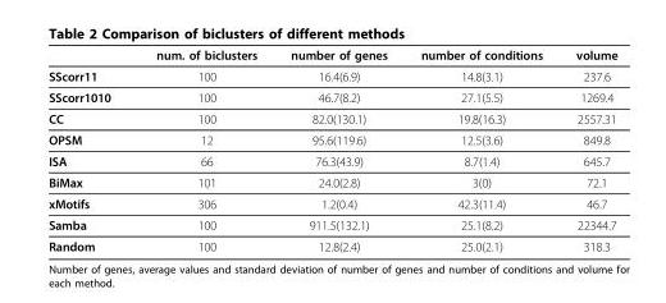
<table><thead><tr><td></td><td>num. of biclusters</td><td>number of genes</td><td>number of conditions</td><td>volume</td></tr></thead><tbody><tr><td>SScorr11</td><td>100</td><td>16.4(6.9)</td><td>14.8(3.1)</td><td>237.6</td></tr><tr><td>SScorr1010</td><td>100</td><td>46.7(8.2)</td><td>27.1(5.5)</td><td>1269.4</td></tr><tr><td>CC</td><td>100</td><td>82.0(130.1)</td><td>19.8(16.3)</td><td>2557.31</td></tr><tr><td>OPSM</td><td>12</td><td>95.6(119.6)</td><td>12.5(3.6)</td><td>849.8</td></tr><tr><td>ISA</td><td>66</td><td>76.3(43.9)</td><td>8.7(1.4)</td><td>645.7</td></tr><tr><td>BiMax</td><td>101</td><td>24.0(2.8)</td><td>3(0)</td><td>72.1</td></tr><tr><td>xMotifs</td><td>306</td><td>1.2(0.4)</td><td>42.3(11.4)</td><td>46.7</td></tr><tr><td>Samba</td><td>100</td><td>911.5(132.1)</td><td>25.1(8.2)</td><td>22344.7</td></tr><tr><td>Random</td><td>100</td><td>12.8(2.4)</td><td>25.0(2.1)</td><td>318.3</td></tr></tbody></table>